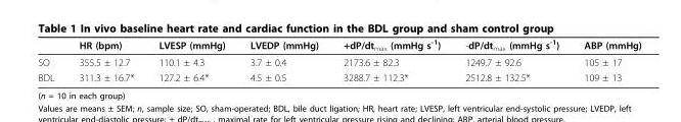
<table><thead><tr><td></td><td>HR (bpm)</td><td>LVESP (mmHg)</td><td>LVEDP (mmHg)</td><td>+dP/dt<sub>max</sub> (mmHg s<sup>-1</sup>)</td><td>-dP/dt<sub>max</sub> (mmHg s<sup>-1</sup>)</td><td>ABP (mmHg)</td></tr></thead><tbody><tr><td>SO</td><td>355.5 ± 12.7</td><td>110.1 ± 4.3</td><td>3.7 ± 0.4</td><td>2173.6 ± 82.3</td><td>1249.7 ± 92.6</td><td>105 ± 17</td></tr><tr><td>BDL</td><td>311.3 ± 16.7*</td><td>127.2 ± 6.4*</td><td>4.5 ± 0.5</td><td>3288.7 ± 112.3*</td><td>2512.8 ± 132.5*</td><td>109 ± 13</td></tr></tbody></table>